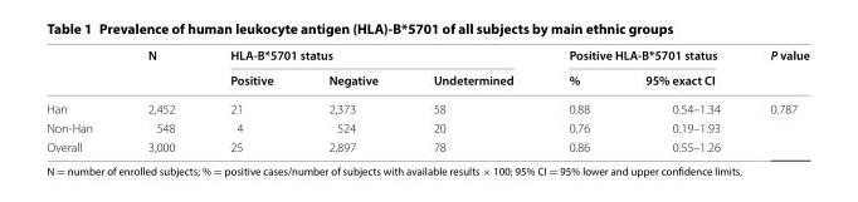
<table><thead><tr><td rowspan="2"></td><td rowspan="2">N</td><td colspan="3">HLA‑B*5701 status</td><td colspan="2">Positive HLA‑B*5701 status</td><td rowspan="2">P value</td></tr><tr><td>Positive</td><td>Negative</td><td>Undetermined</td><td>%</td><td>95% exact CI</td></tr></thead><tbody><tr><td>Han</td><td>2,452</td><td>21</td><td>2,373</td><td>58</td><td>0.88</td><td>0.54–1.34</td><td rowspan="3">0.787</td></tr><tr><td>Non-Han</td><td>548</td><td>4</td><td>524</td><td>20</td><td>0.76</td><td>0.19–1.93</td></tr><tr><td>Overall</td><td>3,000</td><td>25</td><td>2,897</td><td>78</td><td>0.86</td><td>0.55–1.26</td></tr></tbody></table>